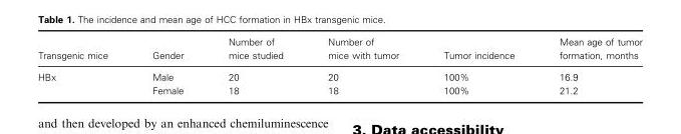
<table><thead><tr><td>Transgenic mice</td><td>Gender</td><td>Number of mice studied</td><td>Number of mice with tumor</td><td>Tumor incidence</td><td>Mean age of tumor formation, months</td></tr></thead><tbody><tr><td rowspan="2">HBx</td><td>Male</td><td>20</td><td>20</td><td>100%</td><td>16.9</td></tr><tr><td>Female</td><td>18</td><td>18</td><td>100%</td><td>21.2</td></tr></tbody></table>